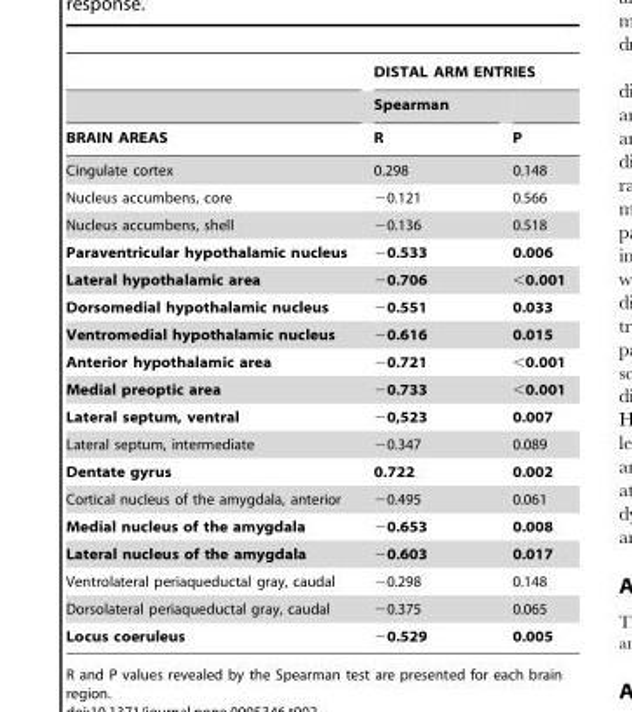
<table><thead><tr><td rowspan="3">BRAIN AREAS</td><td colspan="2">DISTAL ARM ENTRIES</td></tr><tr><td rowspan="2">Spearman R</td><td rowspan="2">P</td></tr><tr></tr></thead><tbody><tr><td>Cingulate cortex</td><td>0.298</td><td>0.148</td></tr><tr><td>Nucleus accumbens, core</td><td>−0.121</td><td>0.566</td></tr><tr><td>Nucleus accumbens, shell</td><td>−0.136</td><td>0.518</td></tr><tr><td>Paraventricular hypothalamic nucleus</td><td>−0.533</td><td>0.006</td></tr><tr><td>Lateral hypothalamic area</td><td>−0.706</td><td>&lt;0.001</td></tr><tr><td>Dorsomedial hypothalamic nucleus</td><td>−0.551</td><td>0.033</td></tr><tr><td>Ventromedial hypothalamic nucleus</td><td>−0.616</td><td>0.015</td></tr><tr><td>Anterior hypothalamic area</td><td>−0.721</td><td>&lt;0.001</td></tr><tr><td>Medial preoptic area</td><td>−0.733</td><td>&lt;0.001</td></tr><tr><td>Lateral septum, ventral</td><td>−0,523</td><td>0.007</td></tr><tr><td>Lateral septum, intermediate</td><td>−0.347</td><td>0.089</td></tr><tr><td>Dentate gyrus</td><td>0.722</td><td>0.002</td></tr><tr><td>Cortical nucleus of the amygdala, anterior</td><td>−0.495</td><td>0.061</td></tr><tr><td>Medial nucleus of the amygdala</td><td>−0.653</td><td>0.008</td></tr><tr><td>Lateral nucleus of the amygdala</td><td>−0.603</td><td>0.017</td></tr><tr><td>Ventrolateral periaqueductal gray, caudal</td><td>−0.298</td><td>0.148</td></tr><tr><td>Dorsolateral periaqueductal gray, caudal</td><td>−0.375</td><td>0.065</td></tr><tr><td>Locus coeruleus</td><td>−0.529</td><td>0.005</td></tr></tbody></table>